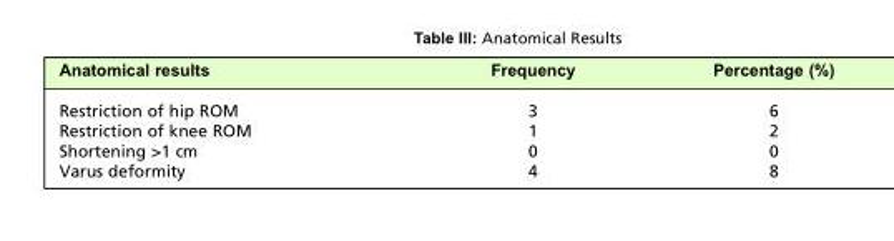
<table><thead><tr><td>Anatomical results</td><td>Frequency</td><td>Percentage (%)</td></tr></thead><tbody><tr><td>Restriction of hip ROM</td><td>3</td><td>6</td></tr><tr><td>Restriction of knee ROM</td><td>1</td><td>2</td></tr><tr><td>Shortening &gt;1 cm</td><td>0</td><td>0</td></tr><tr><td>Varus deformity</td><td>4</td><td>8</td></tr></tbody></table>